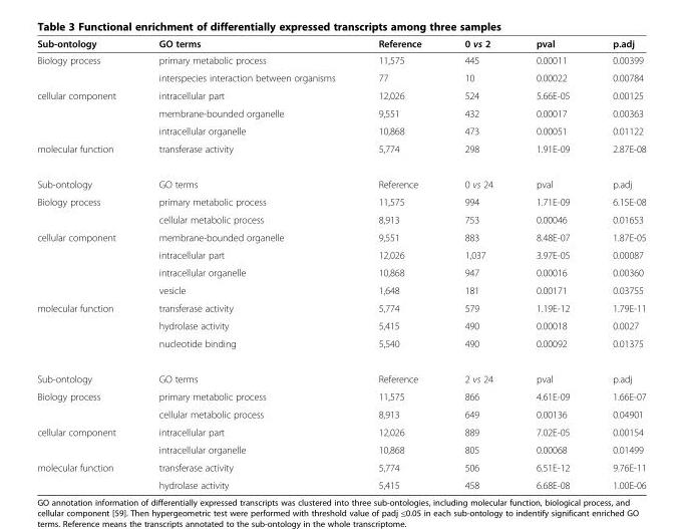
<table><thead><tr><td>Sub-ontology</td><td>GO terms</td><td>Reference</td><td>0 vs 2</td><td>pval</td><td>p.adj</td></tr></thead><tbody><tr><td rowspan="2">Biology process</td><td>primary metabolic process</td><td>11,575</td><td>445</td><td>0.00011</td><td>0.00399</td></tr><tr><td>interspecies interaction between organisms</td><td>77</td><td>10</td><td>0.00022</td><td>0.00784</td></tr><tr><td rowspan="3">cellular component</td><td>intracellular part</td><td>12,026</td><td>524</td><td>5.66E-05</td><td>0.00125</td></tr><tr><td>membrane-bounded organelle</td><td>9,551</td><td>432</td><td>0.00017</td><td>0.00363</td></tr><tr><td>intracellular organelle</td><td>10,868</td><td>473</td><td>0.00051</td><td>0.01122</td></tr><tr><td>molecular function</td><td>transferase activity</td><td>5,774</td><td>298</td><td>1.91E-09</td><td>2.87E-08</td></tr><tr><td>Sub-ontology</td><td>GO terms</td><td>Reference</td><td>0 vs 24</td><td>pval</td><td>p.adj</td></tr><tr><td rowspan="2">Biology process</td><td>primary metabolic process</td><td>11,575</td><td>994</td><td>1.71E-09</td><td>6.15E-08</td></tr><tr><td>cellular metabolic process</td><td>8,913</td><td>753</td><td>0.00046</td><td>0.01653</td></tr><tr><td rowspan="4">cellular component</td><td>membrane-bounded organelle</td><td>9,551</td><td>883</td><td>8.48E-07</td><td>1.87E-05</td></tr><tr><td>intracellular part</td><td>12,026</td><td>1,037</td><td>3.97E-05</td><td>0.00087</td></tr><tr><td>intracellular organelle</td><td>10,868</td><td>947</td><td>0.00016</td><td>0.00360</td></tr><tr><td>vesicle</td><td>1,648</td><td>181</td><td>0.00171</td><td>0.03755</td></tr><tr><td rowspan="3">molecular function</td><td>transferase activity</td><td>5,774</td><td>579</td><td>1.19E-12</td><td>1.79E-11</td></tr><tr><td>hydrolase activity</td><td>5,415</td><td>490</td><td>0.00018</td><td>0.0027</td></tr><tr><td>nucleotide binding</td><td>5,540</td><td>490</td><td>0.00092</td><td>0.01375</td></tr><tr><td>Sub-ontology</td><td>GO terms</td><td>Reference</td><td>2 vs 24</td><td>pval</td><td>p.adj</td></tr><tr><td rowspan="2">Biology process</td><td>primary metabolic process</td><td>11,575</td><td>866</td><td>4.61E-09</td><td>1.66E-07</td></tr><tr><td>cellular metabolic process</td><td>8,913</td><td>649</td><td>0.00136</td><td>0.04901</td></tr><tr><td rowspan="2">cellular component</td><td>intracellular part</td><td>12,026</td><td>889</td><td>7.02E-05</td><td>0.00154</td></tr><tr><td>intracellular organelle</td><td>10,868</td><td>805</td><td>0.00068</td><td>0.01499</td></tr><tr><td rowspan="2">molecular function</td><td>transferase activity</td><td>5,774</td><td>506</td><td>6.51E-12</td><td>9.76E-11</td></tr><tr><td>hydrolase activity</td><td>5,415</td><td>458</td><td>6.68E-08</td><td>1.00E-06</td></tr></tbody></table>